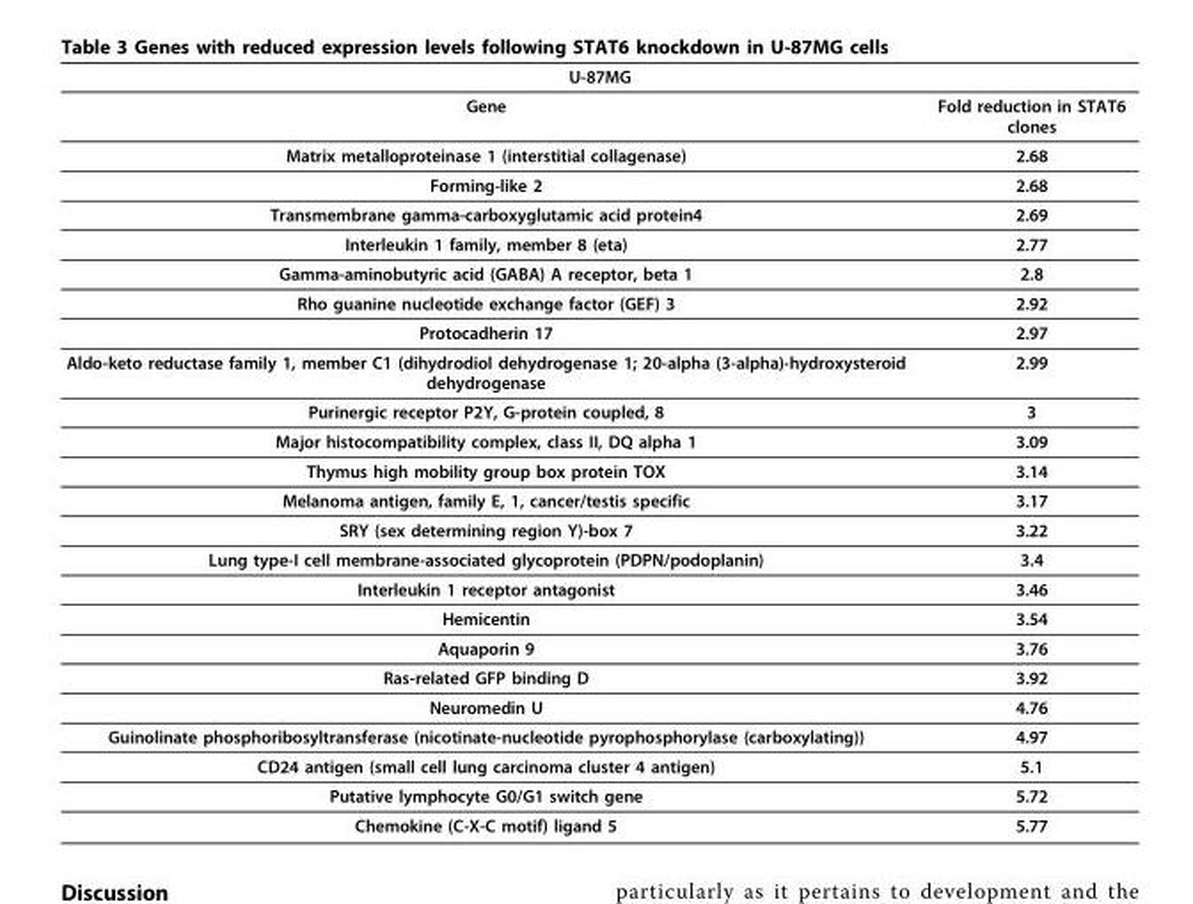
<table><thead><tr><td colspan="2">U-87MG</td></tr><tr><td>Gene</td><td>Fold reduction in STAT6 clones</td></tr></thead><tbody><tr><td>Matrix metalloproteinase 1 (interstitial collagenase)</td><td>2.68</td></tr><tr><td>Forming-like 2</td><td>2.68</td></tr><tr><td>Transmembrane gamma-carboxyglutamic acid protein4</td><td>2.69</td></tr><tr><td>Interleukin 1 family, member 8 (eta)</td><td>2.77</td></tr><tr><td>Gamma-aminobutyric acid (GABA) A receptor, beta 1</td><td>2.8</td></tr><tr><td>Rho guanine nucleotide exchange factor (GEF) 3</td><td>2.92</td></tr><tr><td>Protocadherin 17</td><td>2.97</td></tr><tr><td>Aldo-keto reductase family 1, member C1 (dihydrodiol dehydrogenase 1; 20-alpha (3-alpha)-hydroxysteroid dehydrogenase</td><td>2.99</td></tr><tr><td>Purinergic receptor P2Y, G-protein coupled, 8</td><td>3</td></tr><tr><td>Major histocompatibility complex, class II, DQ alpha 1</td><td>3.09</td></tr><tr><td>Thymus high mobility group box protein TOX</td><td>3.14</td></tr><tr><td>Melanoma antigen, family E, 1, cancer/testis specific</td><td>3.17</td></tr><tr><td>SRY (sex determining region Y)-box 7</td><td>3.22</td></tr><tr><td>Lung type-I cell membrane-associated glycoprotein (PDPN/podoplanin)</td><td>3.4</td></tr><tr><td>Interleukin 1 receptor antagonist</td><td>3.46</td></tr><tr><td>Hemicentin</td><td>3.54</td></tr><tr><td>Aquaporin 9</td><td>3.76</td></tr><tr><td>Ras-related GFP binding D</td><td>3.92</td></tr><tr><td>Neuromedin U</td><td>4.76</td></tr><tr><td>Guinolinate phosphoribosyltransferase (nicotinate-nucleotide pyrophosphorylase (carboxylating))</td><td>4.97</td></tr><tr><td>CD24 antigen (small cell lung carcinoma cluster 4 antigen)</td><td>5.1</td></tr><tr><td>Putative lymphocyte G0/G1 switch gene</td><td>5.72</td></tr><tr><td>Chemokine (C-X-C motif) ligand 5</td><td>5.77</td></tr></tbody></table>